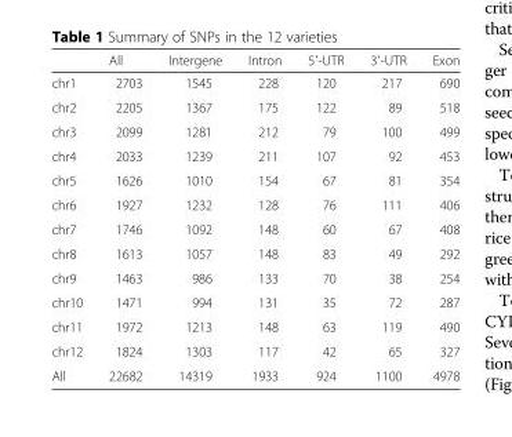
<table><thead><tr><td></td><td>All</td><td>Intergene</td><td>Intron</td><td>5′-UTR</td><td>3′-UTR</td><td>Exon</td></tr></thead><tbody><tr><td>chr1</td><td>2703</td><td>1545</td><td>228</td><td>120</td><td>217</td><td>690</td></tr><tr><td>chr2</td><td>2205</td><td>1367</td><td>175</td><td>122</td><td>89</td><td>518</td></tr><tr><td>chr3</td><td>2099</td><td>1281</td><td>212</td><td>79</td><td>100</td><td>499</td></tr><tr><td>chr4</td><td>2033</td><td>1239</td><td>211</td><td>107</td><td>92</td><td>453</td></tr><tr><td>chr5</td><td>1626</td><td>1010</td><td>154</td><td>67</td><td>81</td><td>354</td></tr><tr><td>chr6</td><td>1927</td><td>1232</td><td>128</td><td>76</td><td>111</td><td>406</td></tr><tr><td>chr7</td><td>1746</td><td>1092</td><td>148</td><td>60</td><td>67</td><td>408</td></tr><tr><td>chr8</td><td>1613</td><td>1057</td><td>148</td><td>83</td><td>49</td><td>292</td></tr><tr><td>chr9</td><td>1463</td><td>986</td><td>133</td><td>70</td><td>38</td><td>254</td></tr><tr><td>chr10</td><td>1471</td><td>994</td><td>131</td><td>35</td><td>72</td><td>287</td></tr><tr><td>chr11</td><td>1972</td><td>1213</td><td>148</td><td>63</td><td>119</td><td>490</td></tr><tr><td>chr12</td><td>1824</td><td>1303</td><td>117</td><td>42</td><td>65</td><td>327</td></tr><tr><td>All</td><td>22682</td><td>14319</td><td>1933</td><td>924</td><td>1100</td><td>4978</td></tr></tbody></table>